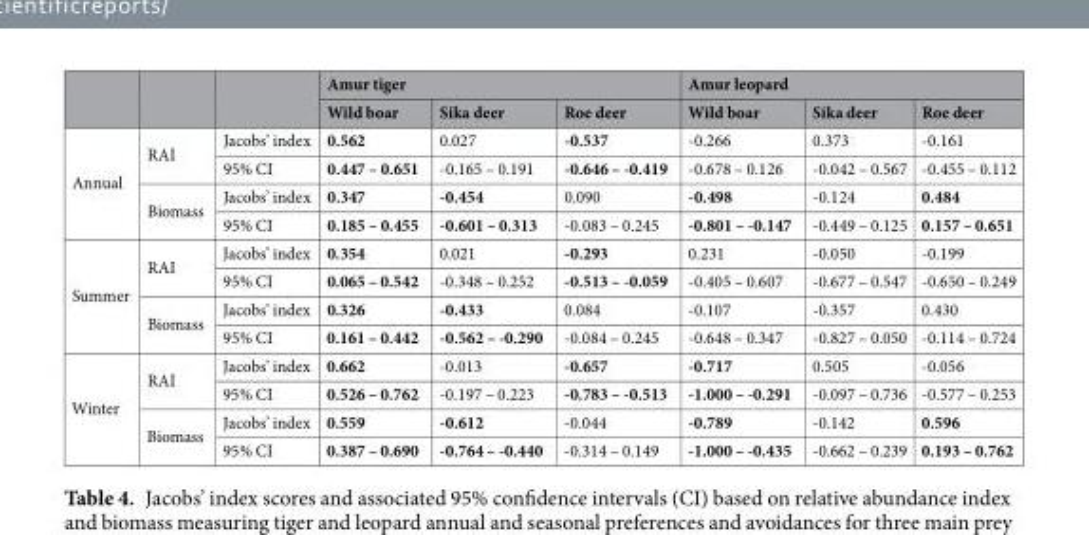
<table><thead><tr><td rowspan="2"></td><td rowspan="2"></td><td rowspan="2"></td><td colspan="3">Amur tiger</td><td colspan="3">Amur leopard</td></tr><tr><td>Wild boar</td><td>Sika deer</td><td>Roe deer</td><td>Wild boar</td><td>Sika deer</td><td>Roe deer</td></tr></thead><tbody><tr><td rowspan="4">Annual</td><td rowspan="2">RAI</td><td>Jacobs’ index</td><td>0.562</td><td>0.027</td><td>-0.537</td><td>-0.266</td><td>0.373</td><td>-0.161</td></tr><tr><td>95% CI</td><td>0.447 – 0.651</td><td>-0.165 – 0.191</td><td>-0.646 – -0.419</td><td>-0.678 – 0.126</td><td>-0.042 – 0.567</td><td>-0.455 – 0.112</td></tr><tr><td rowspan="2">Biomass</td><td>Jacobs’ index</td><td>0.347</td><td>-0.454</td><td>0.090</td><td>-0.498</td><td>-0.124</td><td>0.484</td></tr><tr><td>95% CI</td><td>0.185 – 0.455</td><td>-0.601 – 0.313</td><td>-0.083 – 0.245</td><td>-0.801 – -0.147</td><td>-0.449 – 0.125</td><td>0.157 – 0.651</td></tr><tr><td rowspan="4">Summer</td><td rowspan="2">RAI</td><td>Jacobs’ index</td><td>0.354</td><td>0.021</td><td>-0.293</td><td>0.231</td><td>-0.050</td><td>-0.199</td></tr><tr><td>95% CI</td><td>0.065 – 0.542</td><td>-0.348 – 0.252</td><td>-0.513 – -0.059</td><td>-0.405 – 0.607</td><td>-0.677 – 0.547</td><td>-0.650 – 0.249</td></tr><tr><td rowspan="2">Biomass</td><td>Jacobs’ index</td><td>0.326</td><td>-0.433</td><td>0.084</td><td>-0.107</td><td>-0.357</td><td>0.430</td></tr><tr><td>95% CI</td><td>0.161 – 0.442</td><td>-0.562 – -0.290</td><td>-0.084 – 0.245</td><td>-0.648 – 0.347</td><td>-0.827 – 0.050</td><td>-0.114 – 0.724</td></tr><tr><td rowspan="4">Winter</td><td rowspan="2">RAI</td><td>Jacobs’ index</td><td>0.662</td><td>-0.013</td><td>-0.657</td><td>-0.717</td><td>0.505</td><td>-0.056</td></tr><tr><td>95% CI</td><td>0.526 – 0.762</td><td>-0.197 – 0.223</td><td>-0.783 – -0.513</td><td>-1.000 – -0.291</td><td>-0.097 – 0.736</td><td>-0.577 – 0.253</td></tr><tr><td rowspan="2">Biomass</td><td>Jacobs’ index</td><td>0.559</td><td>-0.612</td><td>-0.044</td><td>-0.789</td><td>-0.142</td><td>0.596</td></tr><tr><td>95% CI</td><td>0.387 – 0.690</td><td>-0.764 – -0.440</td><td>-0.314 – 0.149</td><td>-1.000 – -0.435</td><td>-0.662 – 0.239</td><td>0.193 – 0.762</td></tr></tbody></table>